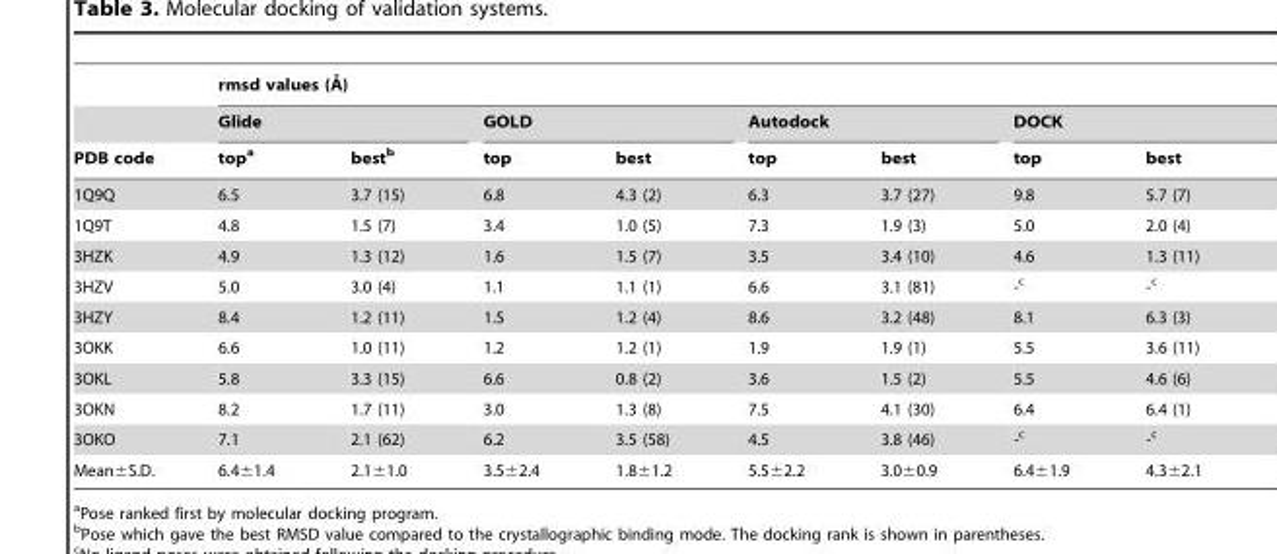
<table><thead><tr><td rowspan="3">PDB code</td><td colspan="8">rmsd values (A˚ )</td></tr><tr><td colspan="2">Glide</td><td colspan="2">GOLD</td><td colspan="2">Autodock</td><td colspan="2">DOCK</td></tr><tr><td>top<sup>a</sup></td><td>best<sup>b</sup></td><td>top</td><td>best</td><td>top</td><td>best</td><td>top</td><td>best</td></tr></thead><tbody><tr><td>1Q9Q</td><td>6.5</td><td>3.7 (15)</td><td>6.8</td><td>4.3 (2)</td><td>6.3</td><td>3.7 (27)</td><td>9.8</td><td>5.7 (7)</td></tr><tr><td>1Q9T</td><td>4.8</td><td>1.5 (7)</td><td>3.4</td><td>1.0 (5)</td><td>7.3</td><td>1.9 (3)</td><td>5.0</td><td>2.0 (4)</td></tr><tr><td>3HZK</td><td>4.9</td><td>1.3 (12)</td><td>1.6</td><td>1.5 (7)</td><td>3.5</td><td>3.4 (10)</td><td>4.6</td><td>1.3 (11)</td></tr><tr><td>3HZV</td><td>5.0</td><td>3.0 (4)</td><td>1.1</td><td>1.1 (1)</td><td>6.6</td><td>3.1 (81)</td><td>-c</td><td>-c</td></tr><tr><td>3HZY</td><td>8.4</td><td>1.2 (11)</td><td>1.5</td><td>1.2 (4)</td><td>8.6</td><td>3.2 (48)</td><td>8.1</td><td>6.3 (3)</td></tr><tr><td>3OKK</td><td>6.6</td><td>1.0 (11)</td><td>1.2</td><td>1.2 (1)</td><td>1.9</td><td>1.9 (1)</td><td>5.5</td><td>3.6 (11)</td></tr><tr><td>3OKL</td><td>5.8</td><td>3.3 (15)</td><td>6.6</td><td>0.8 (2)</td><td>3.6</td><td>1.5 (2)</td><td>5.5</td><td>4.6 (6)</td></tr><tr><td>3OKN</td><td>8.2</td><td>1.7 (11)</td><td>3.0</td><td>1.3 (8)</td><td>7.5</td><td>4.1 (30)</td><td>6.4</td><td>6.4 (1)</td></tr><tr><td>3OKO</td><td>7.1</td><td>2.1 (62)</td><td>6.2</td><td>3.5 (58)</td><td>4.5</td><td>3.8 (46)</td><td>-c</td><td>-c</td></tr><tr><td>Mean±S.D.</td><td>6.4±1.4</td><td>2.1±1.0</td><td>3.5±2.4</td><td>1.8±1.2</td><td>5.5±2.2</td><td>3.0±0.9</td><td>6.4±1.9</td><td>4.3±2.1</td></tr></tbody></table>